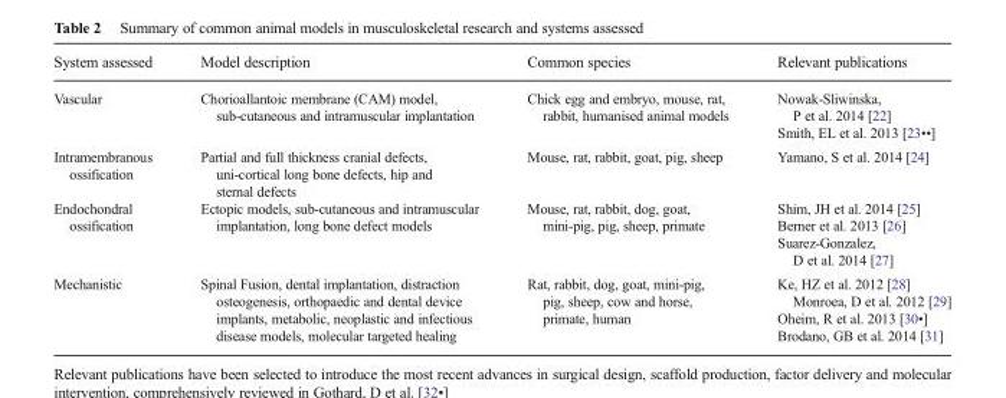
<table><thead><tr><td>System assessed</td><td>Model description</td><td>Common species</td><td>Relevant publications</td></tr></thead><tbody><tr><td>Vascular</td><td>Chorioallantoic membrane (CAM) model, sub-cutaneous and intramuscular implantation</td><td>Chick egg and embryo, mouse, rat, rabbit, humanised animal models</td><td>Nowak-Sliwinska, P et al. 2014 [22] Smith, EL et al. 2013 [23••]</td></tr><tr><td>Intramembranous ossification</td><td>Partial and full thickness cranial defects, uni-cortical long bone defects, hip and sternal defects</td><td>Mouse, rat, rabbit, goat, pig, sheep</td><td>Yamano, S et al. 2014 [24]</td></tr><tr><td>Endochondral ossification</td><td>Ectopic models, sub-cutaneous and intramuscular implantation, long bone defect models</td><td>Mouse, rat, rabbit, dog, goat, mini-pig, pig, sheep, primate</td><td>Shim, JH et al. 2014 [25] Berner et al. 2013 [26] Suarez-Gonzalez, D et al. 2014 [27]</td></tr><tr><td>Mechanistic</td><td>Spinal Fusion, dental implantation, distraction osteogenesis, orthopaedic and dental device implants, metabolic, neoplastic and infectious disease models, molecular targeted healing</td><td>Rat, rabbit, dog, goat, mini-pig, pig, sheep, cow and horse, primate, human</td><td>Ke, HZ et al. 2012 [28] Monroea, D et al. 2012 [29] Oheim, R et al. 2013 [30•] Brodano, GB et al. 2014 [31]</td></tr></tbody></table>